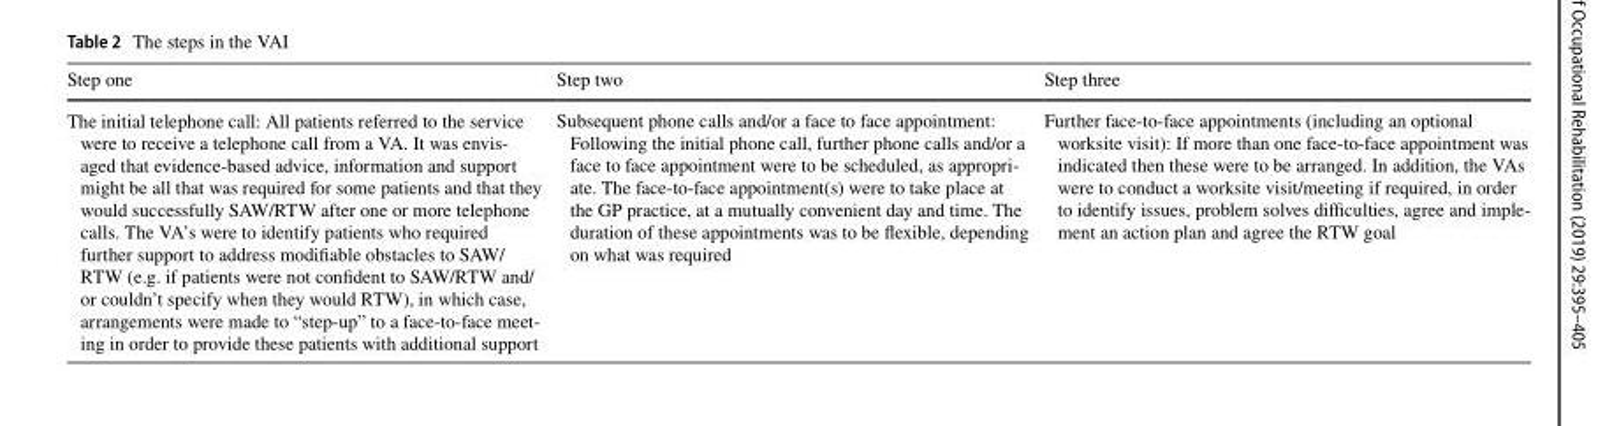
<table><thead><tr><td>Step one</td><td>Step two</td><td>Step three</td></tr></thead><tbody><tr><td>The initial telephone call: All patients referred to the service were to receive a telephone call from a VA. It was envis- aged that evidence-based advice, information and support might be all that was required for some patients and that they would successfully SAW/RTW after one or more telephone calls. The VA’s were to identify patients who required further support to address modifiable obstacles to SAW/ RTW (e.g. if patients were not confident to SAW/RTW and/ or couldn’t specify when they would RTW), in which case, arrangements were made to “step-up” to a face-to-face meet- ing in order to provide these patients with additional support</td><td>Subsequent phone calls and/or a face to face appointment: Following the initial phone call, further phone calls and/or a face to face appointment were to be scheduled, as appropri- ate. The face-to-face appointment(s) were to take place at the GP practice, at a mutually convenient day and time. The duration of these appointments was to be flexible, depending on what was required</td><td>Further face-to-face appointments (including an optional worksite visit): If more than one face-to-face appointment was indicated then these were to be arranged. In addition, the VAs were to conduct a worksite visit/meeting if required, in order to identify issues, problem solves difficulties, agree and imple- ment an action plan and agree the RTW goal</td></tr></tbody></table>